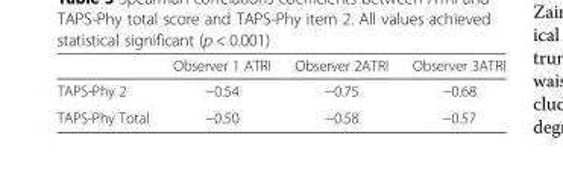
<table><thead><tr><td></td><td>Observer 1 ATRI</td><td>Observer 2ATRI</td><td>Observer 3ATRI</td></tr></thead><tbody><tr><td>TAPS-Phy 2</td><td>−0.54</td><td>−0.75</td><td>−0.68</td></tr><tr><td>TAPS-Phy Total</td><td>−0.50</td><td>−0.58</td><td>−0.57</td></tr></tbody></table>